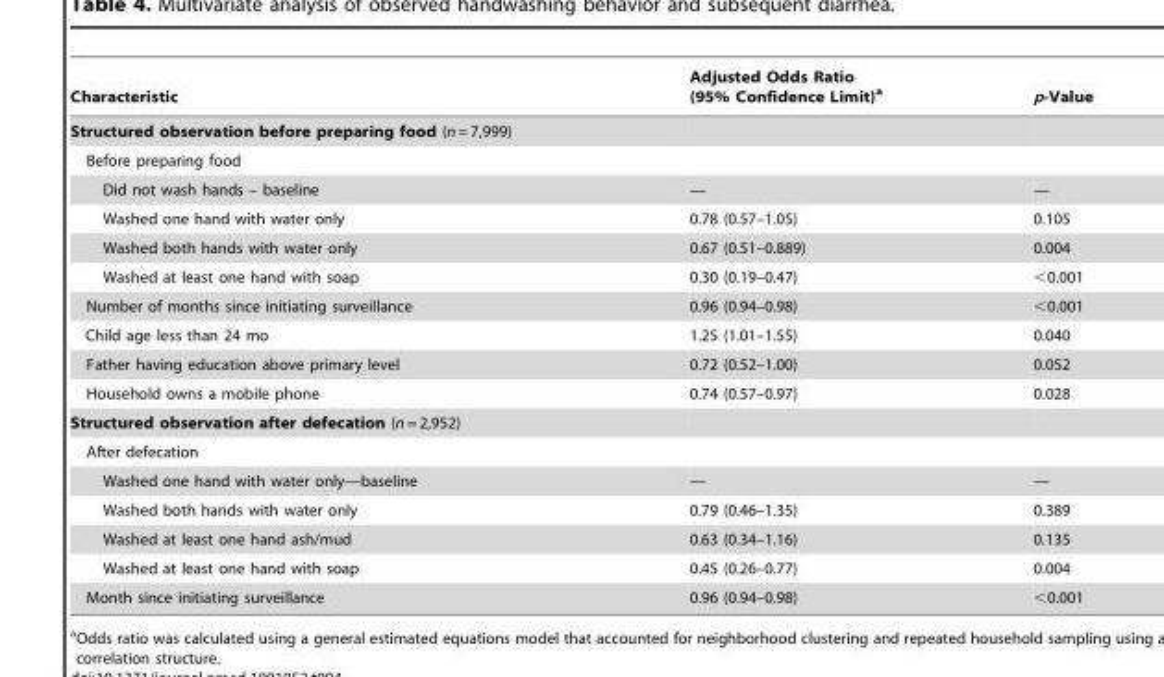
<table><thead><tr><td>Characteristic</td><td>Adjusted Odds Ratio (95% Confidence Limit)<sup>a</sup></td><td>p-Value</td></tr></thead><tbody><tr><td colspan="3">Structured observation before preparing food (n = 7,999)</td></tr><tr><td colspan="3">Before preparing food</td></tr><tr><td>Did not wash hands – baseline</td><td>—</td><td>—</td></tr><tr><td>Washed one hand with water only</td><td>0.78 (0.57–1.05)</td><td>0.105</td></tr><tr><td>Washed both hands with water only</td><td>0.67 (0.51–0.889)</td><td>0.004</td></tr><tr><td>Washed at least one hand with soap</td><td>0.30 (0.19–0.47)</td><td>&lt;0.001</td></tr><tr><td>Number of months since initiating surveillance</td><td>0.96 (0.94–0.98)</td><td>&lt;0.001</td></tr><tr><td>Child age less than 24 mo</td><td>1.25 (1.01–1.55)</td><td>0.040</td></tr><tr><td>Father having education above primary level</td><td>0.72 (0.52–1.00)</td><td>0.052</td></tr><tr><td>Household owns a mobile phone</td><td>0.74 (0.57–0.97)</td><td>0.028</td></tr><tr><td colspan="3">Structured observation after defecation (n = 2,952)</td></tr><tr><td colspan="3">After defecation</td></tr><tr><td>Washed one hand with water only—baseline</td><td>—</td><td>—</td></tr><tr><td>Washed both hands with water only</td><td>0.79 (0.46–1.35)</td><td>0.389</td></tr><tr><td>Washed at least one hand ash/mud</td><td>0.63 (0.34–1.16)</td><td>0.135</td></tr><tr><td>Washed at least one hand with soap</td><td>0.45 (0.26–0.77)</td><td>0.004</td></tr><tr><td>Month since initiating surveillance</td><td>0.96 (0.94–0.98)</td><td>&lt;0.001</td></tr></tbody></table>